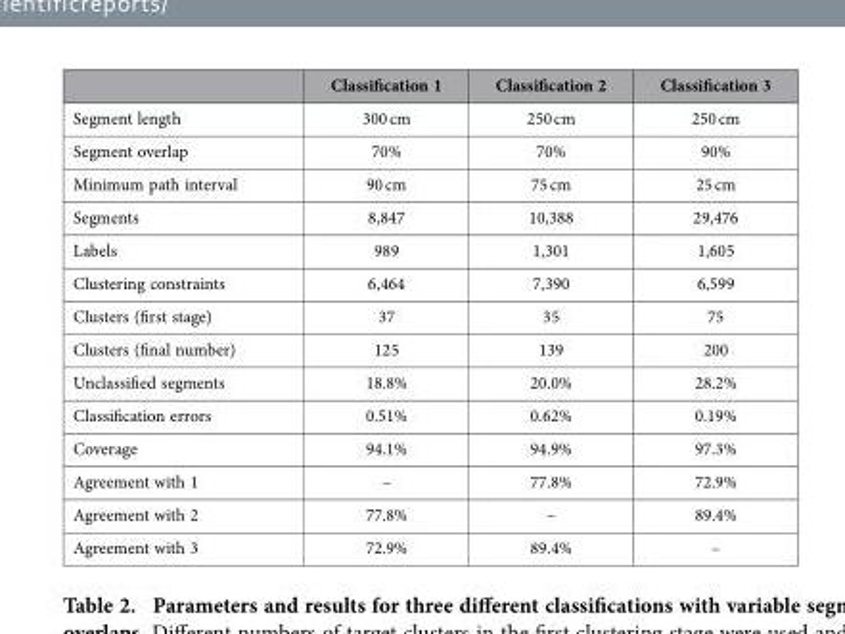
<table><thead><tr><td></td><td>Classification 1</td><td>Classification 2</td><td>Classification 3</td></tr></thead><tbody><tr><td>Segment length</td><td>300 cm</td><td>250 cm</td><td>250 cm</td></tr><tr><td>Segment overlap</td><td>70%</td><td>70%</td><td>90%</td></tr><tr><td>Minimum path interval</td><td>90 cm</td><td>75 cm</td><td>25 cm</td></tr><tr><td>Segments</td><td>8,847</td><td>10,388</td><td>29,476</td></tr><tr><td>Labels</td><td>989</td><td>1,301</td><td>1,605</td></tr><tr><td>Clustering constraints</td><td>6,464</td><td>7,390</td><td>6,599</td></tr><tr><td>Clusters (first stage)</td><td>37</td><td>35</td><td>75</td></tr><tr><td>Clusters (final number)</td><td>125</td><td>139</td><td>200</td></tr><tr><td>Unclassified segments</td><td>18.8%</td><td>20.0%</td><td>28.2%</td></tr><tr><td>Classification errors</td><td>0.51%</td><td>0.62%</td><td>0.19%</td></tr><tr><td>Coverage</td><td>94.1%</td><td>94.9%</td><td>97.3%</td></tr><tr><td>Agreement with 1</td><td>–</td><td>77.8%</td><td>72.9%</td></tr><tr><td>Agreement with 2</td><td>77.8%</td><td>–</td><td>89.4%</td></tr><tr><td>Agreement with 3</td><td>72.9%</td><td>89.4%</td><td>–</td></tr></tbody></table>